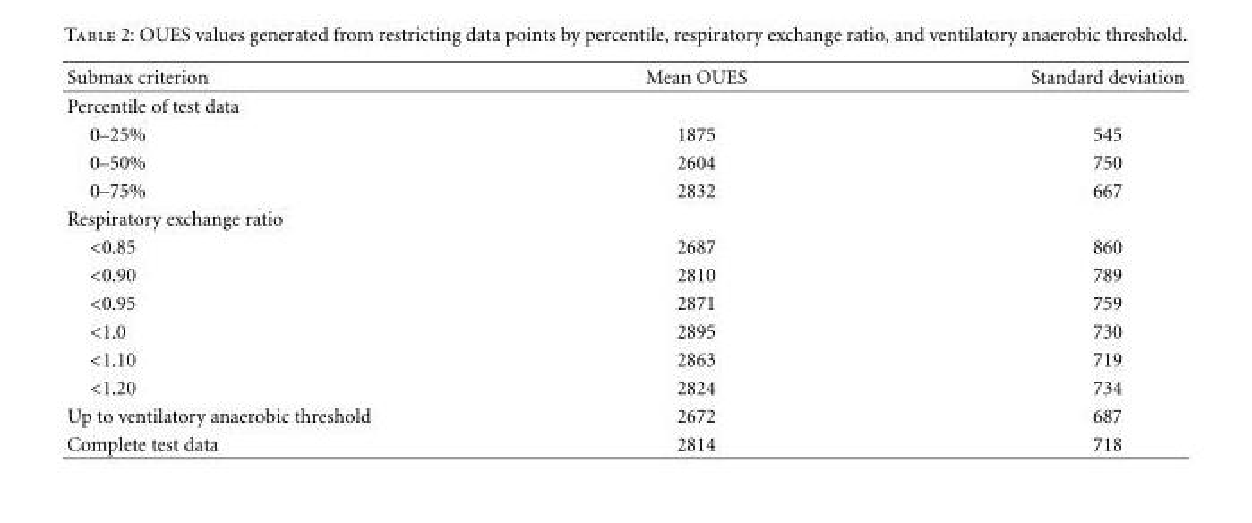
<table><thead><tr><td>Submax criterion</td><td>Mean OUES</td><td>Standard deviation</td></tr></thead><tbody><tr><td colspan="3">Percentile of test data</td></tr><tr><td>0–25%</td><td>1875</td><td>545</td></tr><tr><td>0–50%</td><td>2604</td><td>750</td></tr><tr><td>0–75%</td><td>2832</td><td>667</td></tr><tr><td colspan="3">Respiratory exchange ratio</td></tr><tr><td>&lt;0.85</td><td>2687</td><td>860</td></tr><tr><td>&lt;0.90</td><td>2810</td><td>789</td></tr><tr><td>&lt;0.95</td><td>2871</td><td>759</td></tr><tr><td>&lt;1.0</td><td>2895</td><td>730</td></tr><tr><td>&lt;1.10</td><td>2863</td><td>719</td></tr><tr><td>&lt;1.20</td><td>2824</td><td>734</td></tr><tr><td>Up to ventilatory anaerobic threshold</td><td>2672</td><td>687</td></tr><tr><td>Complete test data</td><td>2814</td><td>718</td></tr></tbody></table>